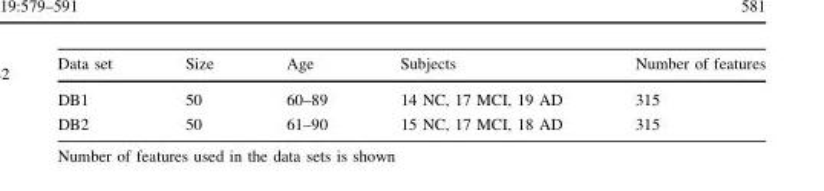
<table><thead><tr><td>Data set</td><td>Size</td><td>Age</td><td>Subjects</td><td>Number of features</td></tr></thead><tbody><tr><td>DB1</td><td>50</td><td>60–89</td><td>14 NC, 17 MCI, 19 AD</td><td>315</td></tr><tr><td>DB2</td><td>50</td><td>61–90</td><td>15 NC, 17 MCI, 18 AD</td><td>315</td></tr></tbody></table>